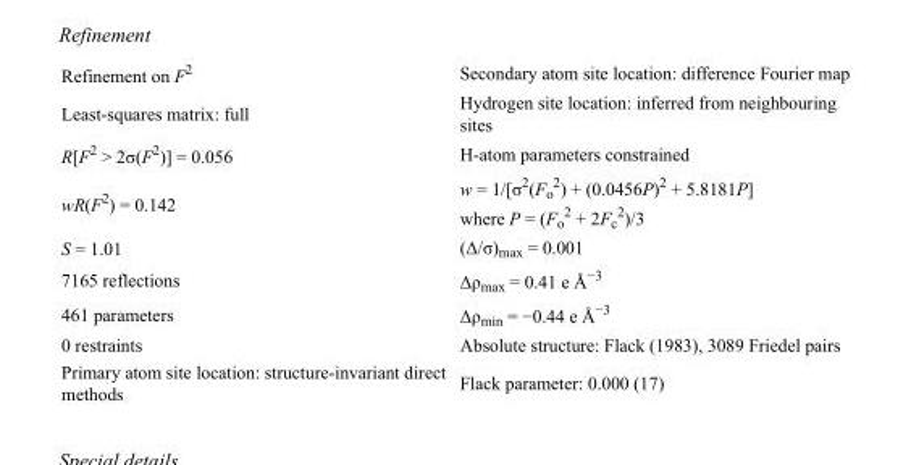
<table><tbody><tr><td>Refinement on F<sup>2</sup></td><td>Secondary atom site location: difference Fourier map</td></tr><tr><td>Least-squares matrix: full</td><td>Hydrogen site location: inferred from neighbouring sites</td></tr><tr><td>R[F<sup>2</sup> &gt; 2σ(F<sup>2</sup>)] = 0.056</td><td>H-atom parameters constrained</td></tr><tr><td>wR(F<sup>2</sup>) = 0.142</td><td>w = 1/[σ<sup>2</sup>(F<sub>o</sub> <sup>2</sup>) + (0.0456P)<sup>2</sup> + 5.8181P] where P = (F<sub>o</sub> <sup>2</sup> + 2F<sub>c</sub> <sup>2</sup>)/3</td></tr><tr><td>S = 1.01</td><td>(Δ/σ)<sub>max</sub> = 0.001</td></tr><tr><td>7165 reflections</td><td>Δρ<sub>max</sub> = 0.41 e Å<sup>−3</sup></td></tr><tr><td>461 parameters</td><td>Δρ<sub>min</sub> = −0.44 e Å<sup>−3</sup></td></tr><tr><td>0 restraints</td><td>Absolute structure: Flack (1983), 3089 Friedel pairs</td></tr><tr><td>Primary atom site location: structure-invariant direct methods</td><td>Flack parameter: 0.000 (17)</td></tr></tbody></table>